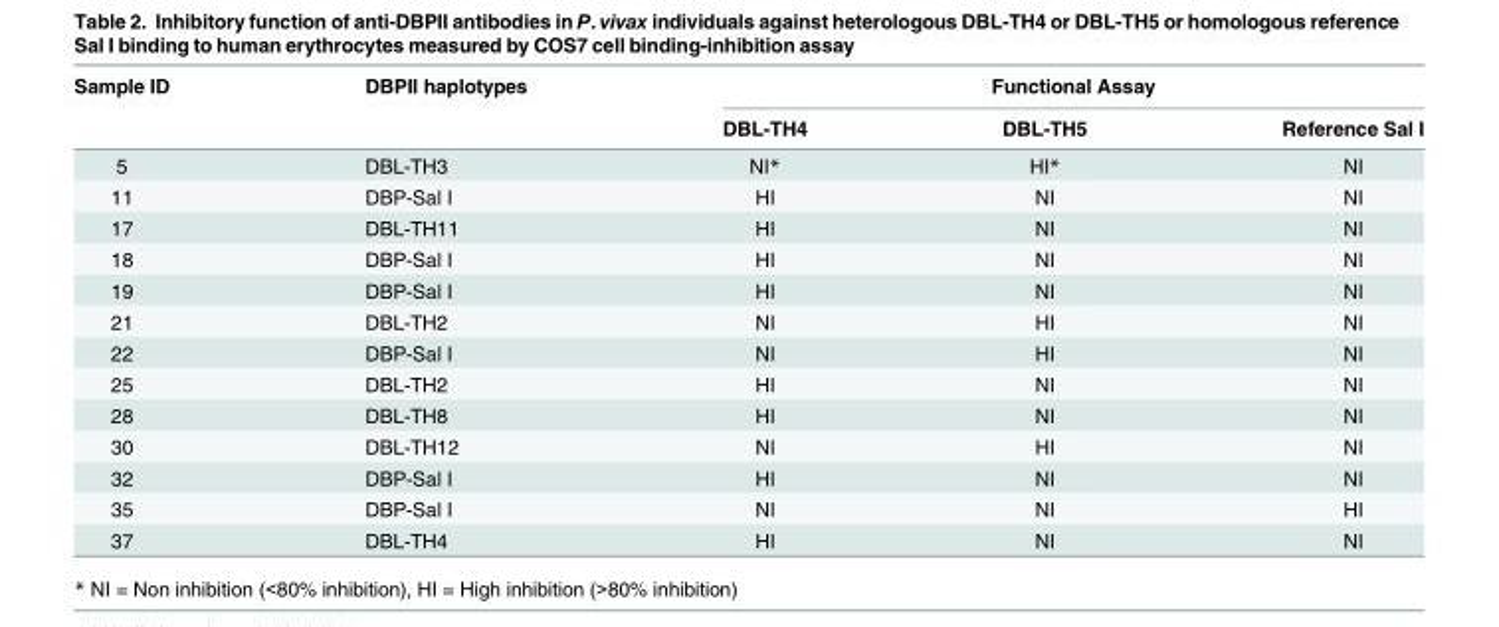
<table><thead><tr><td rowspan="2">Sample ID</td><td rowspan="2">DBPII haplotypes</td><td colspan="3">Functional Assay</td></tr><tr><td>DBL-TH4</td><td>DBL-TH5</td><td>Reference Sal I</td></tr></thead><tbody><tr><td>5</td><td>DBL-TH3</td><td>NI*</td><td>HI*</td><td>NI</td></tr><tr><td>11</td><td>DBP-Sal I</td><td>HI</td><td>NI</td><td>NI</td></tr><tr><td>17</td><td>DBL-TH11</td><td>HI</td><td>NI</td><td>NI</td></tr><tr><td>18</td><td>DBP-Sal I</td><td>HI</td><td>NI</td><td>NI</td></tr><tr><td>19</td><td>DBP-Sal I</td><td>HI</td><td>NI</td><td>NI</td></tr><tr><td>21</td><td>DBL-TH2</td><td>NI</td><td>HI</td><td>NI</td></tr><tr><td>22</td><td>DBP-Sal I</td><td>NI</td><td>HI</td><td>NI</td></tr><tr><td>25</td><td>DBL-TH2</td><td>HI</td><td>NI</td><td>NI</td></tr><tr><td>28</td><td>DBL-TH8</td><td>HI</td><td>NI</td><td>NI</td></tr><tr><td>30</td><td>DBL-TH12</td><td>NI</td><td>HI</td><td>NI</td></tr><tr><td>32</td><td>DBP-Sal I</td><td>HI</td><td>NI</td><td>NI</td></tr><tr><td>35</td><td>DBP-Sal I</td><td>NI</td><td>NI</td><td>HI</td></tr><tr><td>37</td><td>DBL-TH4</td><td>HI</td><td>NI</td><td>NI</td></tr></tbody></table>